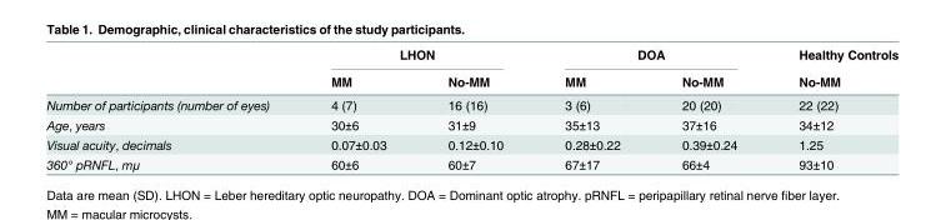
<table><thead><tr><td rowspan="2"></td><td colspan="2">LHON</td><td colspan="2">DOA</td><td rowspan="2">Healthy Controls No-MM</td></tr><tr><td>MM</td><td>No-MM</td><td>MM</td><td>No-MM</td></tr></thead><tbody><tr><td>Number of participants (number of eyes)</td><td>4 (7)</td><td>16 (16)</td><td>3 (6)</td><td>20 (20)</td><td>22 (22)</td></tr><tr><td>Age, years</td><td>30±6</td><td>31±9</td><td>35±13</td><td>37±16</td><td>34±12</td></tr><tr><td>Visual acuity, decimals</td><td>0.07±0.03</td><td>0.12±0.10</td><td>0.28±0.22</td><td>0.39±0.24</td><td>1.25</td></tr><tr><td>360° pRNFL, mμ</td><td>60±6</td><td>60±7</td><td>67±17</td><td>66±4</td><td>93±10</td></tr></tbody></table>